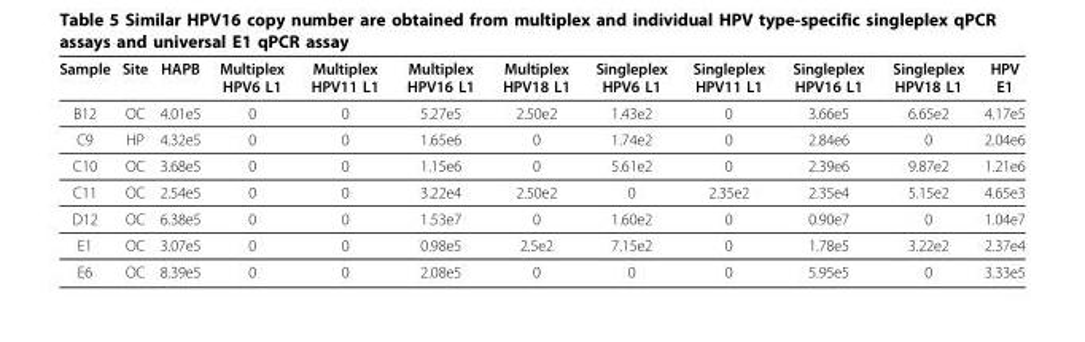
<table><thead><tr><td>Sample</td><td>Site</td><td>HAPB</td><td>Multiplex HPV6 L1</td><td>Multiplex HPV11 L1</td><td>Multiplex HPV16 L1</td><td>Multiplex HPV18 L1</td><td>Singleplex HPV6 L1</td><td>Singleplex HPV11 L1</td><td>Singleplex HPV16 L1</td><td>Singleplex HPV18 L1</td><td>HPV E1</td></tr></thead><tbody><tr><td>B12</td><td>OC</td><td>4.01e5</td><td>0</td><td>0</td><td>5.27e5</td><td>2.50e2</td><td>1.43e2</td><td>0</td><td>3.66e5</td><td>6.65e2</td><td>4.17e5</td></tr><tr><td>C9</td><td>HP</td><td>4.32e5</td><td>0</td><td>0</td><td>1.65e6</td><td>0</td><td>1.74e2</td><td>0</td><td>2.84e6</td><td>0</td><td>2.04e6</td></tr><tr><td>C10</td><td>OC</td><td>3.68e5</td><td>0</td><td>0</td><td>1.15e6</td><td>0</td><td>5.61e2</td><td>0</td><td>2.39e6</td><td>9.87e2</td><td>1.21e6</td></tr><tr><td>C11</td><td>OC</td><td>2.54e5</td><td>0</td><td>0</td><td>3.22e4</td><td>2.50e2</td><td>0</td><td>2.35e2</td><td>2.35e4</td><td>5.15e2</td><td>4.65e3</td></tr><tr><td>D12</td><td>OC</td><td>6.38e5</td><td>0</td><td>0</td><td>1.53e7</td><td>0</td><td>1.60e2</td><td>0</td><td>0.90e7</td><td>0</td><td>1.04e7</td></tr><tr><td>E1</td><td>OC</td><td>3.07e5</td><td>0</td><td>0</td><td>0.98e5</td><td>2.5e2</td><td>7.15e2</td><td>0</td><td>1.78e5</td><td>3.22e2</td><td>2.37e4</td></tr><tr><td>E6</td><td>OC</td><td>8.39e5</td><td>0</td><td>0</td><td>2.08e5</td><td>0</td><td>0</td><td>0</td><td>5.95e5</td><td>0</td><td>3.33e5</td></tr></tbody></table>